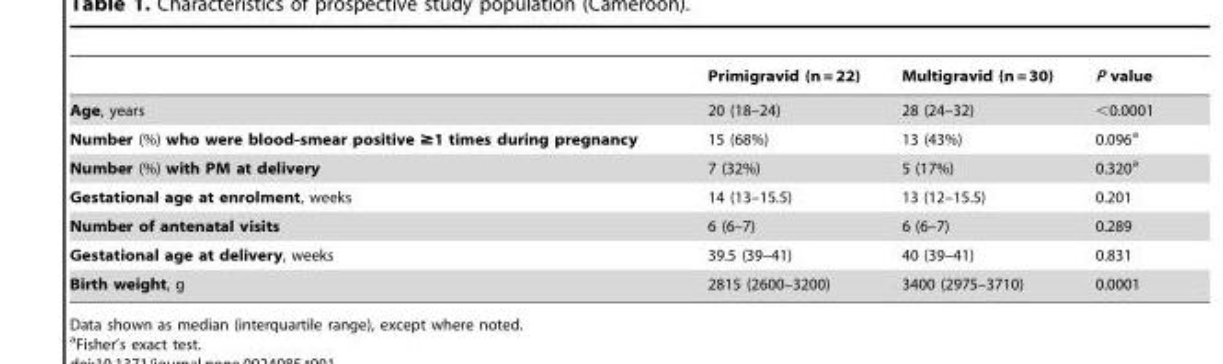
<table><thead><tr><td></td><td>Primigravid (n = 22)</td><td>Multigravid (n = 30)</td><td>P value</td></tr></thead><tbody><tr><td>Age, years</td><td>20 (18–24)</td><td>28 (24–32)</td><td>&lt;0.0001</td></tr><tr><td>Number (%) who were blood-smear positive ≥1 times during pregnancy</td><td>15 (68%)</td><td>13 (43%)</td><td>0.096<sup>a</sup></td></tr><tr><td>Number (%) with PM at delivery</td><td>7 (32%)</td><td>5 (17%)</td><td>0.320<sup>a</sup></td></tr><tr><td>Gestational age at enrolment, weeks</td><td>14 (13–15.5)</td><td>13 (12–15.5)</td><td>0.201</td></tr><tr><td>Number of antenatal visits</td><td>6 (6–7)</td><td>6 (6–7)</td><td>0.289</td></tr><tr><td>Gestational age at delivery, weeks</td><td>39.5 (39–41)</td><td>40 (39–41)</td><td>0.831</td></tr><tr><td>Birth weight, g</td><td>2815 (2600–3200)</td><td>3400 (2975–3710)</td><td>0.0001</td></tr></tbody></table>